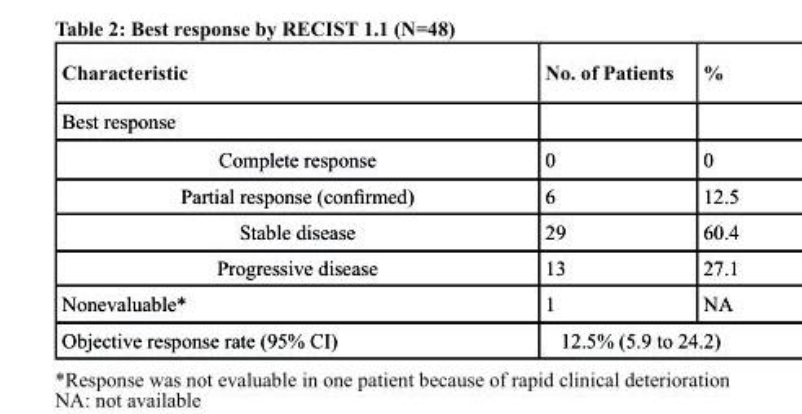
<table><thead><tr><td>characteristic</td><td>no. of Patients</td><td>%</td></tr></thead><tbody><tr><td colspan="3">Best response</td></tr><tr><td>Complete response</td><td>0</td><td>0</td></tr><tr><td>Partial response (confirmed)</td><td>6</td><td>12.5</td></tr><tr><td>Stable disease</td><td>29</td><td>60.4</td></tr><tr><td>Progressive disease</td><td>13</td><td>27.1</td></tr><tr><td>Nonevaluable*</td><td>1</td><td>NA</td></tr><tr><td>Objective response rate (95% CI)</td><td colspan="2">12.5% (5.9 to 24.2)</td></tr></tbody></table>